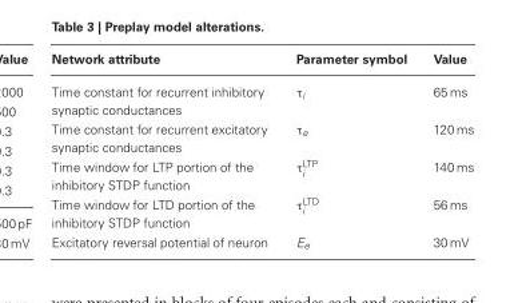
<table><thead><tr><td>Network attribute</td><td>Parameter symbol</td><td>Value</td></tr></thead><tbody><tr><td>Time constant for recurrent inhibitory synaptic conductances</td><td>τ<sub>i</sub></td><td>65 ms</td></tr><tr><td>Time constant for recurrent excitatory synaptic conductances</td><td>τ<sub>e</sub></td><td>120 ms</td></tr><tr><td>Time window for LTP portion of the inhibitory STDP function</td><td>τ<sup>LTP</sup> <sub>i</sub></td><td>140 ms</td></tr><tr><td>Time window for LTD portion of the inhibitory STDP function</td><td>τ<sup>LTD</sup> <sub>i</sub></td><td>56 ms</td></tr><tr><td>Excitatory reversal potential of neuron</td><td>E<sub>e</sub></td><td>30 mV</td></tr></tbody></table>